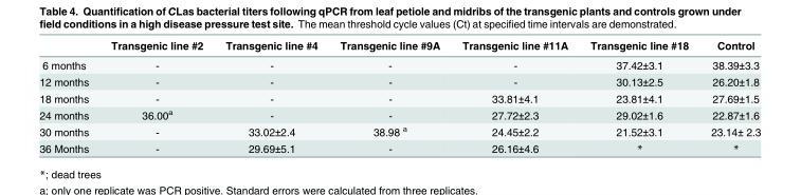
<table><thead><tr><td></td><td>Transgenic line #2</td><td>Transgenic line #4</td><td>Transgenic line #9A</td><td>Transgenic line #11A</td><td>Transgenic line #18</td><td>Control</td></tr></thead><tbody><tr><td>6 months</td><td>-</td><td>-</td><td>-</td><td>-</td><td>37.42±3.1</td><td>38.39±3.3</td></tr><tr><td>12 months</td><td>-</td><td>-</td><td>-</td><td>-</td><td>30.13±2.5</td><td>26.20±1.8</td></tr><tr><td>18 months</td><td>-</td><td>-</td><td>-</td><td>33.81±4.1</td><td>23.81±4.1</td><td>27.69±1.5</td></tr><tr><td>24 months</td><td>36.00<sup>a</sup></td><td>-</td><td>-</td><td>27.72±2.3</td><td>29.02±1.6</td><td>22.87±1.6</td></tr><tr><td>30 months</td><td>-</td><td>33.02±2.4</td><td>38.98 <sup>a</sup></td><td>24.45±2.2</td><td>21.52±3.1</td><td>23.14± 2.3</td></tr><tr><td>36 Months</td><td>-</td><td>29.69±5.1</td><td>-</td><td>26.16±4.6</td><td>*</td><td>*</td></tr></tbody></table>